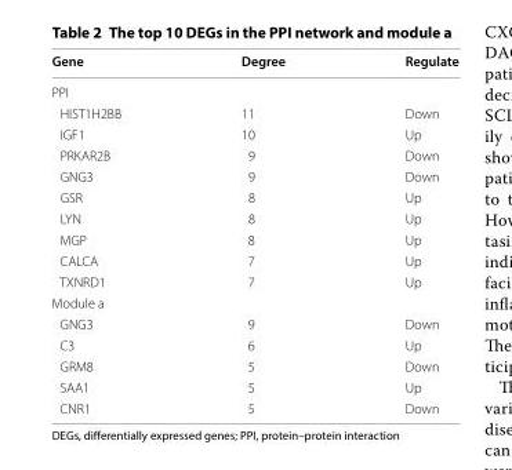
<table><thead><tr><td>Gene</td><td>Degree</td><td>Regulate</td></tr></thead><tbody><tr><td colspan="3">PPI</td></tr><tr><td>HIST1H2BB</td><td>11</td><td>Down</td></tr><tr><td>IGF1</td><td>10</td><td>Up</td></tr><tr><td>PRKAR2B</td><td>9</td><td>Down</td></tr><tr><td>GNG3</td><td>9</td><td>Down</td></tr><tr><td>GSR</td><td>8</td><td>Up</td></tr><tr><td>LYN</td><td>8</td><td>Up</td></tr><tr><td>MGP</td><td>8</td><td>Up</td></tr><tr><td>CALCA</td><td>7</td><td>Up</td></tr><tr><td>TXNRD1</td><td>7</td><td>Up</td></tr><tr><td colspan="3">Module a</td></tr><tr><td>GNG3</td><td>9</td><td>Down</td></tr><tr><td>C3</td><td>6</td><td>Up</td></tr><tr><td>GRM8</td><td>5</td><td>Down</td></tr><tr><td>SAA1</td><td>5</td><td>Up</td></tr><tr><td>CNR1</td><td>5</td><td>Down</td></tr></tbody></table>